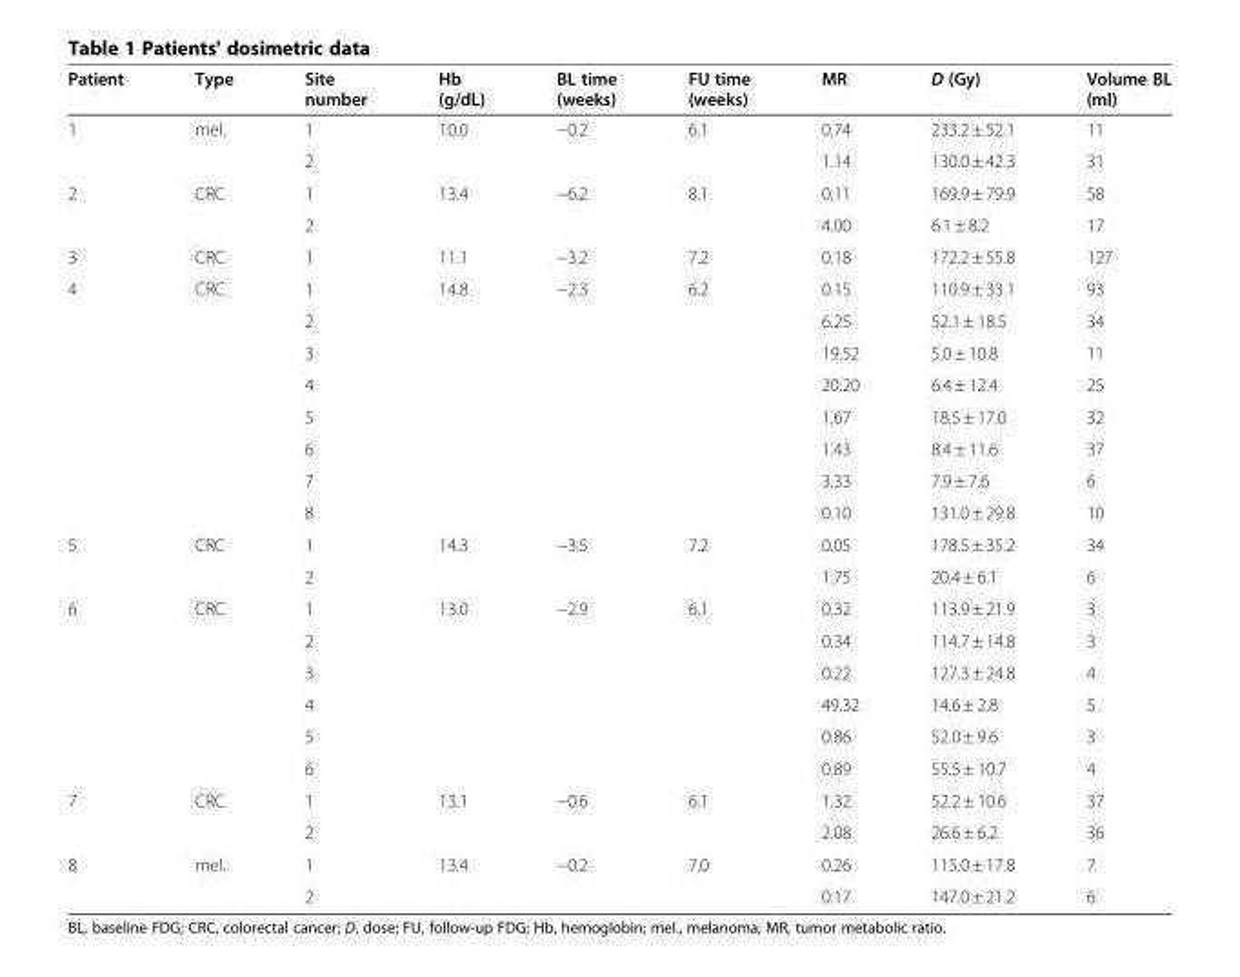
<table><thead><tr><td>Patient</td><td>Type</td><td>Site number</td><td>Hb (g/dL)</td><td>BL time (weeks)</td><td>FU time (weeks)</td><td>MR</td><td>D (Gy)</td><td>Volume BL (ml)</td></tr></thead><tbody><tr><td rowspan="2">1</td><td rowspan="2">mel.</td><td>1</td><td>10.0</td><td>−0.2</td><td>6.1</td><td>0.74</td><td>233.2 ± 52.1</td><td>11</td></tr><tr><td>2</td><td></td><td></td><td></td><td>1.14</td><td>130.0 ± 42.3</td><td>31</td></tr><tr><td rowspan="2">2</td><td rowspan="2">CRC</td><td>1</td><td>13.4</td><td>−6.2</td><td>8.1</td><td>0.11</td><td>169.9 ± 79.9</td><td>58</td></tr><tr><td>2</td><td></td><td></td><td></td><td>4.00</td><td>6.1 ± 8.2</td><td>17</td></tr><tr><td>3</td><td>CRC</td><td>1</td><td>11.1</td><td>−3.2</td><td>7.2</td><td>0.18</td><td>172.2 ± 55.8</td><td>127</td></tr><tr><td rowspan="8">4</td><td rowspan="8">CRC</td><td>1</td><td>14.8</td><td>−2.3</td><td>6.2</td><td>0.15</td><td>110.9 ± 33.1</td><td>93</td></tr><tr><td>2</td><td></td><td></td><td></td><td>6.25</td><td>52.1 ± 18.5</td><td>34</td></tr><tr><td>3</td><td></td><td></td><td></td><td>19.52</td><td>5.0 ± 10.8</td><td>11</td></tr><tr><td>4</td><td></td><td></td><td></td><td>20.20</td><td>6.4 ± 12.4</td><td>25</td></tr><tr><td>5</td><td></td><td></td><td></td><td>1.67</td><td>18.5 ± 17.0</td><td>32</td></tr><tr><td>6</td><td></td><td></td><td></td><td>1.43</td><td>8.4 ± 11.6</td><td>37</td></tr><tr><td>7</td><td></td><td></td><td></td><td>3.33</td><td>7.9 ± 7.6</td><td>6</td></tr><tr><td>8</td><td></td><td></td><td></td><td>0.10</td><td>131.0 ± 29.8</td><td>10</td></tr><tr><td rowspan="2">5</td><td rowspan="2">CRC</td><td>1</td><td>14.3</td><td>−3.5</td><td>7.2</td><td>0.05</td><td>178.5 ± 35.2</td><td>34</td></tr><tr><td>2</td><td></td><td></td><td></td><td>1.75</td><td>20.4 ± 6.1</td><td>6</td></tr><tr><td rowspan="6">6</td><td rowspan="6">CRC</td><td>1</td><td>13.0</td><td>−2.9</td><td>6.1</td><td>0.32</td><td>113.9 ± 21.9</td><td>3</td></tr><tr><td>2</td><td></td><td></td><td></td><td>0.34</td><td>114.7 ± 14.8</td><td>3</td></tr><tr><td>3</td><td></td><td></td><td></td><td>0.22</td><td>127.3 ± 24.8</td><td>4</td></tr><tr><td>4</td><td></td><td></td><td></td><td>49.32</td><td>14.6 ± 2.8</td><td>5</td></tr><tr><td>5</td><td></td><td></td><td></td><td>0.86</td><td>52.0 ± 9.6</td><td>3</td></tr><tr><td>6</td><td></td><td></td><td></td><td>0.89</td><td>55.5 ± 10.7</td><td>4</td></tr><tr><td rowspan="2">7</td><td rowspan="2">CRC</td><td>1</td><td>13.1</td><td>−0.6</td><td>6.1</td><td>1.32</td><td>52.2 ± 10.6</td><td>37</td></tr><tr><td>2</td><td></td><td></td><td></td><td>2.08</td><td>26.6 ± 6.2</td><td>36</td></tr><tr><td rowspan="2">8</td><td>mel.</td><td>1</td><td>13.4</td><td>−0.2</td><td>7.0</td><td>0.26</td><td>115.0 ± 17.8</td><td>7</td></tr><tr><td></td><td>2</td><td></td><td></td><td></td><td>0.17</td><td>147.0 ± 21.2</td><td>6</td></tr></tbody></table>